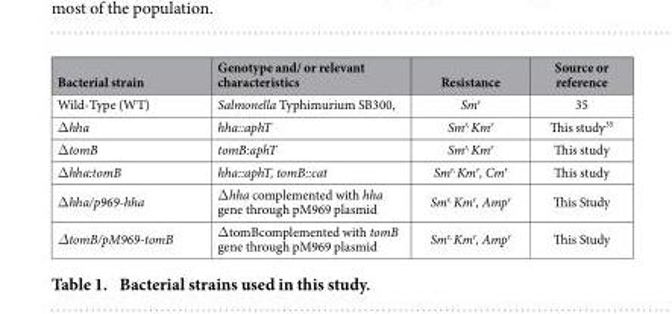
<table><thead><tr><td>Bacterial strain</td><td>Genotype and/ or relevant characteristics</td><td>Resistance</td><td>Source or reference</td></tr></thead><tbody><tr><td>Wild-Type (WT)</td><td>Salmonella Typhimurium SB300,</td><td>Sm<sup>r</sup></td><td>35</td></tr><tr><td>Δ hha</td><td>hha::aphT</td><td>Sm<sup>r,</sup> Km<sup>r</sup></td><td>This study<sup>35</sup></td></tr><tr><td>Δ tomB</td><td>tomB:aphT</td><td>Sm<sup>r,</sup> Km<sup>r</sup></td><td>This study</td></tr><tr><td>Δ hha:tomB</td><td>hha::aphT, tomB::cat</td><td>Sm<sup>r,</sup> Km<sup>r</sup>, Cm<sup>r</sup></td><td>This study</td></tr><tr><td>Δ hha/p969-hha</td><td>Δ hha complemented with hha gene through pM969 plasmid</td><td>Sm<sup>r,</sup> Km<sup>r</sup>, Amp<sup>r</sup></td><td>This Study</td></tr><tr><td>ΔtomB/pM969-tomB</td><td>Δ tomBcomplemented with tomB gene through pM969 plasmid</td><td>Sm<sup>r,</sup> Km<sup>r</sup>, Amp<sup>r</sup></td><td>This Study</td></tr></tbody></table>